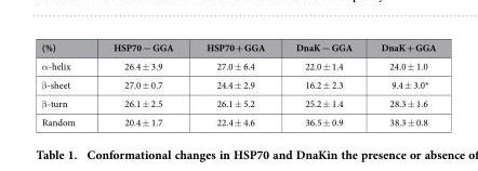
<table><thead><tr><td>(%)</td><td>HSP70 − GGA</td><td>HSP70 + GGA</td><td>DnaK − GGA</td><td>DnaK + GGA</td></tr></thead><tbody><tr><td>α -helix</td><td>26.4 ± 3.9</td><td>27.0 ± 6.4</td><td>22.0 ± 1.4</td><td>24.0 ± 1.0</td></tr><tr><td>β -sheet</td><td>27.0 ± 0.7</td><td>24.4 ± 2.9</td><td>16.2 ± 2.3</td><td>9.4 ± 3.0*</td></tr><tr><td>β -turn</td><td>26.1 ± 2.5</td><td>26.1 ± 5.2</td><td>25.2 ± 1.4</td><td>28.3 ± 1.6</td></tr><tr><td>Random</td><td>20.4 ± 1.7</td><td>22.4 ± 4.6</td><td>36.5 ± 0.9</td><td>38.3 ± 0.8</td></tr></tbody></table>